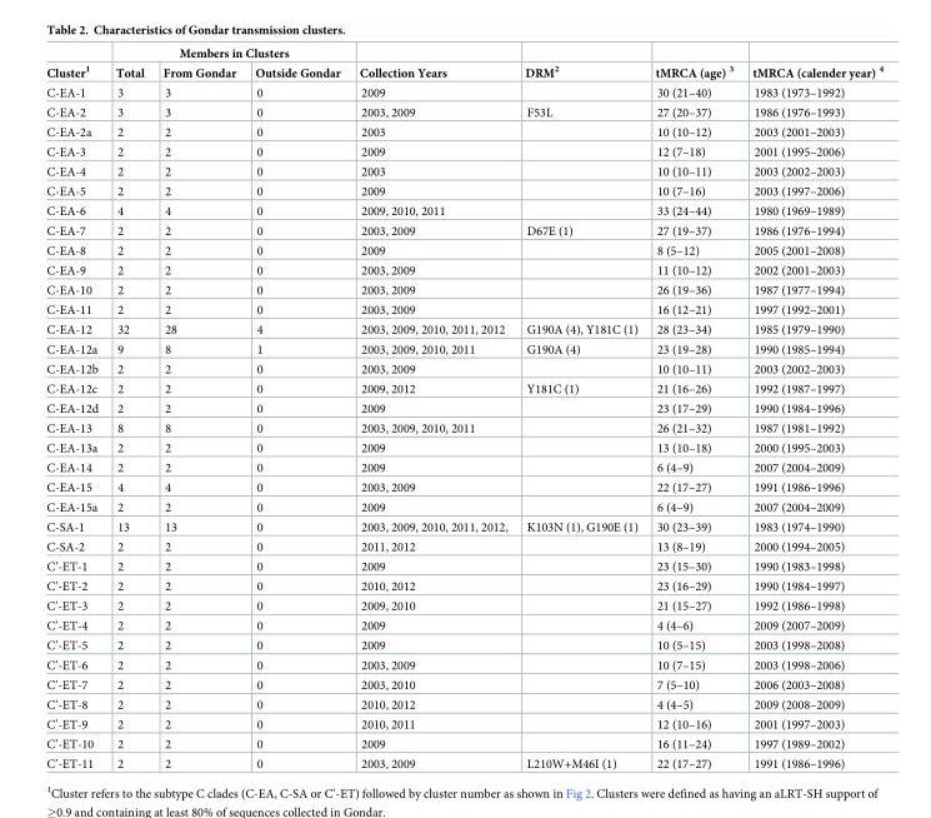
<table><thead><tr><td rowspan="2">Cluster<sup>1</sup></td><td colspan="3">Members in Clusters</td><td rowspan="2">Collection Years</td><td rowspan="2">DRM<sup>2</sup></td><td rowspan="2">tMRCA (age) <sup>3</sup></td><td rowspan="2">tMRCA (calender year) <sup>4</sup></td></tr><tr><td>Total</td><td>From Gondar</td><td>Outside Gondar</td></tr></thead><tbody><tr><td>C-EA-1</td><td>3</td><td>3</td><td>0</td><td>2009</td><td></td><td>30 (21–40)</td><td>1983 (1973–1992)</td></tr><tr><td>C-EA-2</td><td>3</td><td>3</td><td>0</td><td>2003, 2009</td><td>F53L</td><td>27 (20–37)</td><td>1986 (1976–1993)</td></tr><tr><td>C-EA-2a</td><td>2</td><td>2</td><td>0</td><td>2003</td><td></td><td>10 (10–12)</td><td>2003 (2001–2003)</td></tr><tr><td>C-EA-3</td><td>2</td><td>2</td><td>0</td><td>2009</td><td></td><td>12 (7–18)</td><td>2001 (1995–2006)</td></tr><tr><td>C-EA-4</td><td>2</td><td>2</td><td>0</td><td>2003</td><td></td><td>10 (10–11)</td><td>2003 (2002–2003)</td></tr><tr><td>C-EA-5</td><td>2</td><td>2</td><td>0</td><td>2009</td><td></td><td>10 (7–16)</td><td>2003 (1997–2006)</td></tr><tr><td>C-EA-6</td><td>4</td><td>4</td><td>0</td><td>2009, 2010, 2011</td><td></td><td>33 (24–44)</td><td>1980 (1969–1989)</td></tr><tr><td>C-EA-7</td><td>2</td><td>2</td><td>0</td><td>2003, 2009</td><td>D67E (1)</td><td>27 (19–37)</td><td>1986 (1976–1994)</td></tr><tr><td>C-EA-8</td><td>2</td><td>2</td><td>0</td><td>2009</td><td></td><td>8 (5–12)</td><td>2005 (2001–2008)</td></tr><tr><td>C-EA-9</td><td>2</td><td>2</td><td>0</td><td>2003, 2009</td><td></td><td>11 (10–12)</td><td>2002 (2001–2003)</td></tr><tr><td>C-EA-10</td><td>2</td><td>2</td><td>0</td><td>2003, 2009</td><td></td><td>26 (19–36)</td><td>1987 (1977–1994)</td></tr><tr><td>C-EA-11</td><td>2</td><td>2</td><td>0</td><td>2003, 2009</td><td></td><td>16 (12–21)</td><td>1997 (1992–2001)</td></tr><tr><td>C-EA-12</td><td>32</td><td>28</td><td>4</td><td>2003, 2009, 2010, 2011, 2012</td><td>G190A (4), Y181C (1)</td><td>28 (23–34)</td><td>1985 (1979–1990)</td></tr><tr><td>C-EA-12a</td><td>9</td><td>8</td><td>1</td><td>2003, 2009, 2010, 2011</td><td>G190A (4)</td><td>23 (19–28)</td><td>1990 (1985–1994)</td></tr><tr><td>C-EA-12b</td><td>2</td><td>2</td><td>0</td><td>2003, 2009</td><td></td><td>10 (10–11)</td><td>2003 (2002–2003)</td></tr><tr><td>C-EA-12c</td><td>2</td><td>2</td><td>0</td><td>2009, 2012</td><td>Y181C (1)</td><td>21 (16–26)</td><td>1992 (1987–1997)</td></tr><tr><td>C-EA-12d</td><td>2</td><td>2</td><td>0</td><td>2009</td><td></td><td>23 (17–29)</td><td>1990 (1984–1996)</td></tr><tr><td>C-EA-13</td><td>8</td><td>8</td><td>0</td><td>2003, 2009, 2010, 2011</td><td></td><td>26 (21–32)</td><td>1987 (1981–1992)</td></tr><tr><td>C-EA-13a</td><td>2</td><td>2</td><td>0</td><td>2009</td><td></td><td>13 (10–18)</td><td>2000 (1995–2003)</td></tr><tr><td>C-EA-14</td><td>2</td><td>2</td><td>0</td><td>2009</td><td></td><td>6 (4–9)</td><td>2007 (2004–2009)</td></tr><tr><td>C-EA-15</td><td>4</td><td>4</td><td>0</td><td>2003, 2009</td><td></td><td>22 (17–27)</td><td>1991 (1986–1996)</td></tr><tr><td>C-EA-15a</td><td>2</td><td>2</td><td>0</td><td>2009</td><td></td><td>6 (4–9)</td><td>2007 (2004–2009)</td></tr><tr><td>C-SA-1</td><td>13</td><td>13</td><td>0</td><td>2003, 2009, 2010, 2011, 2012,</td><td>K103N (1), G190E (1)</td><td>30 (23–39)</td><td>1983 (1974–1990)</td></tr><tr><td>C-SA-2</td><td>2</td><td>2</td><td>0</td><td>2011, 2012</td><td></td><td>13 (8–19)</td><td>2000 (1994–2005)</td></tr><tr><td>C’-ET-1</td><td>2</td><td>2</td><td>0</td><td>2009</td><td></td><td>23 (15–30)</td><td>1990 (1983–1998)</td></tr><tr><td>C’-ET-2</td><td>2</td><td>2</td><td>0</td><td>2010, 2012</td><td></td><td>23 (16–29)</td><td>1990 (1984–1997)</td></tr><tr><td>C’-ET-3</td><td>2</td><td>2</td><td>0</td><td>2009, 2010</td><td></td><td>21 (15–27)</td><td>1992 (1986–1998)</td></tr><tr><td>C’-ET-4</td><td>2</td><td>2</td><td>0</td><td>2009</td><td></td><td>4 (4–6)</td><td>2009 (2007–2009)</td></tr><tr><td>C’-ET-5</td><td>2</td><td>2</td><td>0</td><td>2009</td><td></td><td>10 (5–15)</td><td>2003 (1998–2008)</td></tr><tr><td>C’-ET-6</td><td>2</td><td>2</td><td>0</td><td>2003, 2009</td><td></td><td>10 (7–15)</td><td>2003 (1998–2006)</td></tr><tr><td>C’-ET-7</td><td>2</td><td>2</td><td>0</td><td>2003, 2010</td><td></td><td>7 (5–10)</td><td>2006 (2003–2008)</td></tr><tr><td>C’-ET-8</td><td>2</td><td>2</td><td>0</td><td>2010, 2012</td><td></td><td>4 (4–5)</td><td>2009 (2008–2009)</td></tr><tr><td>C’-ET-9</td><td>2</td><td>2</td><td>0</td><td>2010, 2011</td><td></td><td>12 (10–16)</td><td>2001 (1997–2003)</td></tr><tr><td>C’-ET-10</td><td>2</td><td>2</td><td>0</td><td>2009</td><td></td><td>16 (11–24)</td><td>1997 (1989–2002)</td></tr><tr><td>C’-ET-11</td><td>2</td><td>2</td><td>0</td><td>2003, 2009</td><td>L210W+M46I (1)</td><td>22 (17–27)</td><td>1991 (1986–1996)</td></tr></tbody></table>